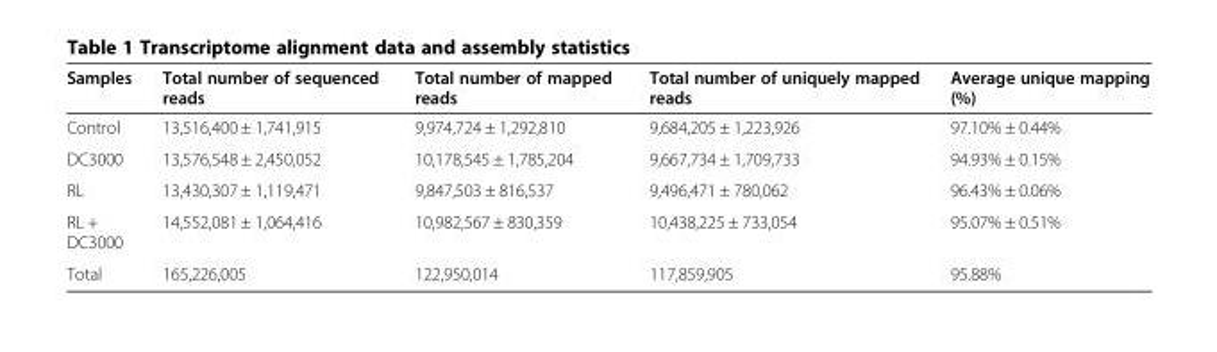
<table><thead><tr><td>Samples</td><td>Total number of sequenced reads</td><td>Total number of mapped reads</td><td>Total number of uniquely mapped reads</td><td>Average unique mapping (%)</td></tr></thead><tbody><tr><td>Control</td><td>13,516,400 ± 1,741,915</td><td>9,974,724 ± 1,292,810</td><td>9,684,205 ± 1,223,926</td><td>97.10% ± 0.44%</td></tr><tr><td>DC3000</td><td>13,576,548 ± 2,450,052</td><td>10,178,545 ± 1,785,204</td><td>9,667,734 ± 1,709,733</td><td>94.93% ± 0.15%</td></tr><tr><td>RL</td><td>13,430,307 ± 1,119,471</td><td>9,847,503 ± 816,537</td><td>9,496,471 ± 780,062</td><td>96.43% ± 0.06%</td></tr><tr><td>RL + DC3000</td><td>14,552,081 ± 1,064,416</td><td>10,982,567 ± 830,359</td><td>10,438,225 ± 733,054</td><td>95.07% ± 0.51%</td></tr><tr><td>Total</td><td>165,226,005</td><td>122,950,014</td><td>117,859,905</td><td>95.88%</td></tr></tbody></table>